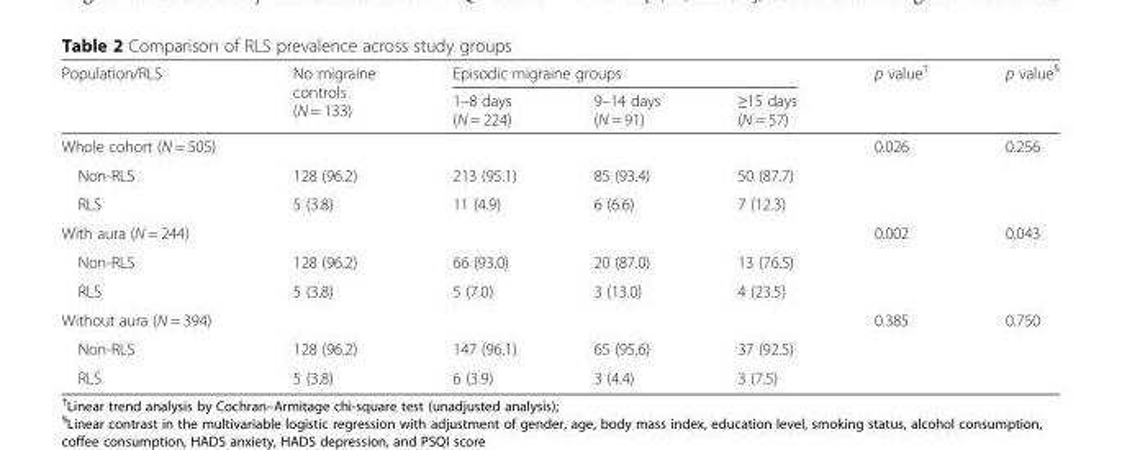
<table><thead><tr><td rowspan="2">Population/RLS</td><td rowspan="2">No migraine controls (N = 133)</td><td colspan="3">Episodic migraine groups</td><td rowspan="2">p value<sup>†</sup></td><td rowspan="2">p value<sup>§</sup></td></tr><tr><td>1–8 days (N = 224)</td><td>9–14 days (N = 91)</td><td>≥15 days (N = 57)</td></tr></thead><tbody><tr><td>Whole cohort (N = 505)</td><td></td><td></td><td></td><td></td><td>0.026</td><td>0.256</td></tr><tr><td>Non-RLS</td><td>128 (96.2)</td><td>213 (95.1)</td><td>85 (93.4)</td><td>50 (87.7)</td><td></td><td></td></tr><tr><td>RLS</td><td>5 (3.8)</td><td>11 (4.9)</td><td>6 (6.6)</td><td>7 (12.3)</td><td></td><td></td></tr><tr><td>With aura (N = 244)</td><td></td><td></td><td></td><td></td><td>0.002</td><td>0.043</td></tr><tr><td>Non-RLS</td><td>128 (96.2)</td><td>66 (93.0)</td><td>20 (87.0)</td><td>13 (76.5)</td><td></td><td></td></tr><tr><td>RLS</td><td>5 (3.8)</td><td>5 (7.0)</td><td>3 (13.0)</td><td>4 (23.5)</td><td></td><td></td></tr><tr><td>Without aura (N = 394)</td><td></td><td></td><td></td><td></td><td>0.385</td><td>0.750</td></tr><tr><td>Non-RLS</td><td>128 (96.2)</td><td>147 (96.1)</td><td>65 (95.6)</td><td>37 (92.5)</td><td></td><td></td></tr><tr><td>RLS</td><td>5 (3.8)</td><td>6 (3.9)</td><td>3 (4.4)</td><td>3 (7.5)</td><td></td><td></td></tr></tbody></table>